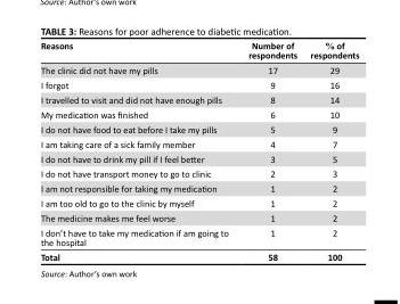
<table><thead><tr><td>Reasons</td><td>Number of respondents</td><td>% of respondents</td></tr></thead><tbody><tr><td>The clinic did not have my pills</td><td>17</td><td>29</td></tr><tr><td>I forgot</td><td>9</td><td>16</td></tr><tr><td>I travelled to visit and did not have enough pills</td><td>8</td><td>14</td></tr><tr><td>My medication was finished</td><td>6</td><td>10</td></tr><tr><td>I do not have food to eat before I take my pills</td><td>5</td><td>9</td></tr><tr><td>I am taking care of a sick family member</td><td>4</td><td>7</td></tr><tr><td>I do not have to drink my pill if I feel better</td><td>3</td><td>5</td></tr><tr><td>I do not have transport money to go to clinic</td><td>2</td><td>3</td></tr><tr><td>I am not responsible for taking my medication</td><td>1</td><td>2</td></tr><tr><td>I am too old to go to the clinic by myself</td><td>1</td><td>2</td></tr><tr><td>The medicine makes me feel worse</td><td>1</td><td>2</td></tr><tr><td>I don’t have to take my medication if am going to the hospital</td><td>1</td><td>2</td></tr><tr><td>Total</td><td>58</td><td>100</td></tr></tbody></table>